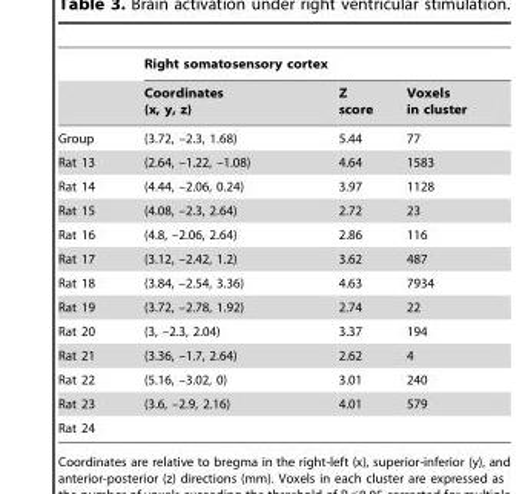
<table><thead><tr><td rowspan="2"></td><td colspan="3">Right somatosensory cortex</td></tr><tr><td>Coordinates (x, y, z)</td><td>Z score</td><td>Voxels in cluster</td></tr></thead><tbody><tr><td>Group</td><td>(3.72, –2.3, 1.68)</td><td>5.44</td><td>77</td></tr><tr><td>Rat 13</td><td>(2.64, –1.22, –1.08)</td><td>4.64</td><td>1583</td></tr><tr><td>Rat 14</td><td>(4.44, –2.06, 0.24)</td><td>3.97</td><td>1128</td></tr><tr><td>Rat 15</td><td>(4.08, –2.3, 2.64)</td><td>2.72</td><td>23</td></tr><tr><td>Rat 16</td><td>(4.8, –2.06, 2.64)</td><td>2.86</td><td>116</td></tr><tr><td>Rat 17</td><td>(3.12, –2.42, 1.2)</td><td>3.62</td><td>487</td></tr><tr><td>Rat 18</td><td>(3.84, –2.54, 3.36)</td><td>4.63</td><td>7934</td></tr><tr><td>Rat 19</td><td>(3.72, –2.78, 1.92)</td><td>2.74</td><td>22</td></tr><tr><td>Rat 20</td><td>(3, –2.3, 2.04)</td><td>3.37</td><td>194</td></tr><tr><td>Rat 21</td><td>(3.36, –1.7, 2.64)</td><td>2.62</td><td>4</td></tr><tr><td>Rat 22</td><td>(5.16, –3.02, 0)</td><td>3.01</td><td>240</td></tr><tr><td>Rat 23</td><td>(3.6, –2.9, 2.16)</td><td>4.01</td><td>579</td></tr><tr><td>Rat 24</td><td></td><td></td><td></td></tr></tbody></table>